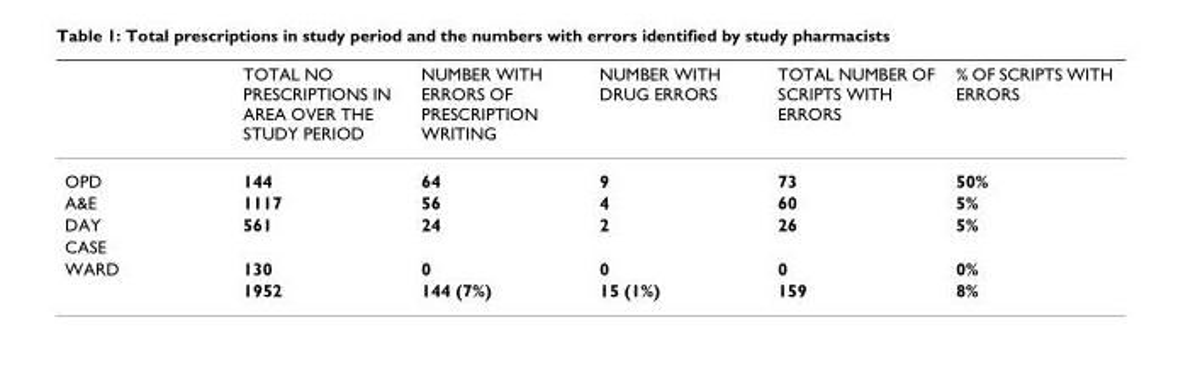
<table><thead><tr><td></td><td>TOTAL NO PRESCRIPTIONS IN AREA OVER THE STUDY PERIOD</td><td>NUMBER WITH ERRORS OF PRESCRIPTION WRITING</td><td>NUMBER WITH DRUG ERRORS</td><td>TOTAL NUMBER OF SCRIPTS WITH ERRORS</td><td>% OF SCRIPTS WITH ERRORS</td></tr></thead><tbody><tr><td>OPD</td><td>144</td><td>64</td><td>9</td><td>73</td><td>50%</td></tr><tr><td>A&amp;E</td><td>1117</td><td>56</td><td>4</td><td>60</td><td>5%</td></tr><tr><td>DAY</td><td>561</td><td>24</td><td>2</td><td>26</td><td>5%</td></tr><tr><td colspan="6">CASE</td></tr><tr><td rowspan="2">WARD</td><td>130</td><td>0</td><td>0</td><td>0</td><td>0%</td></tr><tr><td>1952</td><td>144 (7%)</td><td>15 (1%)</td><td>159</td><td>8%</td></tr></tbody></table>